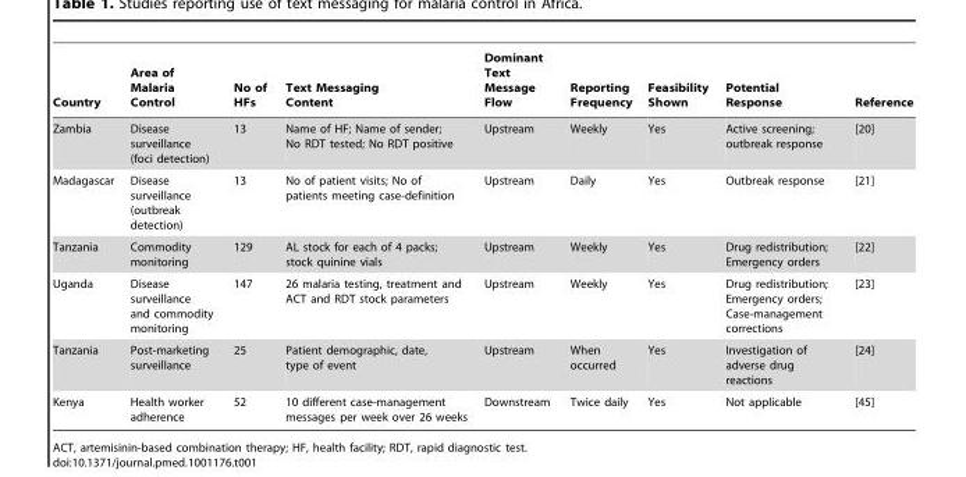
<table><thead><tr><td>Country</td><td>Area of Malaria Control</td><td>No of HFs</td><td>Text Messaging Content</td><td>Dominant Text Message Flow</td><td>Reporting Frequency</td><td>Feasibility Shown</td><td>Potential Response</td><td>Reference</td></tr></thead><tbody><tr><td>Zambia</td><td>Disease surveillance (foci detection)</td><td>13</td><td>Name of HF; Name of sender; No RDT tested; No RDT positive</td><td>Upstream</td><td>Weekly</td><td>Yes</td><td>Active screening; outbreak response</td><td>[20]</td></tr><tr><td>Madagascar</td><td>Disease surveillance (outbreak detection)</td><td>13</td><td>No of patient visits; No of patients meeting case-definition</td><td>Upstream</td><td>Daily</td><td>Yes</td><td>Outbreak response</td><td>[21]</td></tr><tr><td>Tanzania</td><td>Commodity monitoring</td><td>129</td><td>AL stock for each of 4 packs; stock quinine vials</td><td>Upstream</td><td>Weekly</td><td>Yes</td><td>Drug redistribution; Emergency orders</td><td>[22]</td></tr><tr><td>Uganda</td><td>Disease surveillance and commodity monitoring</td><td>147</td><td>26 malaria testing, treatment and ACT and RDT stock parameters</td><td>Upstream</td><td>Weekly</td><td>Yes</td><td>Drug redistribution; Emergency orders; Case-management corrections</td><td>[23]</td></tr><tr><td>Tanzania</td><td>Post-marketing surveillance</td><td>25</td><td>Patient demographic, date, type of event</td><td>Upstream</td><td>When occurred</td><td>Yes</td><td>Investigation of adverse drug reactions</td><td>[24]</td></tr><tr><td>Kenya</td><td>Health worker adherence</td><td>52</td><td>10 different case-management messages per week over 26 weeks</td><td>Downstream</td><td>Twice daily</td><td>Yes</td><td>Not applicable</td><td>[45]</td></tr></tbody></table>